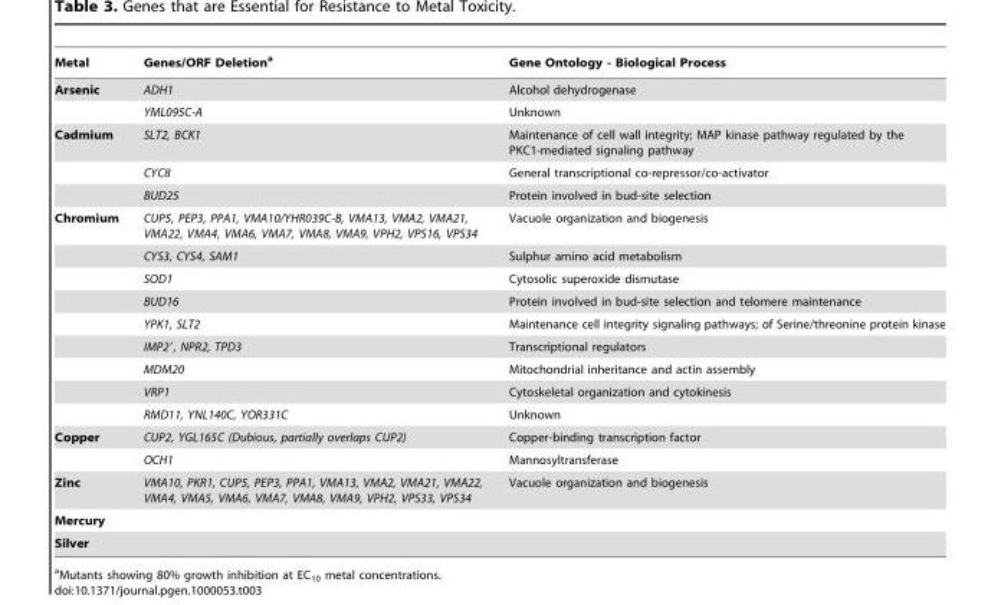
<table><thead><tr><td>Metal</td><td>Genes/ORF Deletion<sup>a</sup></td><td>Gene Ontology - Biological Process</td></tr></thead><tbody><tr><td rowspan="2">Arsenic</td><td>ADH1</td><td>Alcohol dehydrogenase</td></tr><tr><td>YML095C-A</td><td>Unknown</td></tr><tr><td rowspan="3">Cadmium</td><td>SLT2, BCK1</td><td>Maintenance of cell wall integrity; MAP kinase pathway regulated by the PKC1-mediated signaling pathway</td></tr><tr><td>CYC8</td><td>General transcriptional co-repressor/co-activator</td></tr><tr><td>BUD25</td><td>Protein involved in bud-site selection</td></tr><tr><td rowspan="9">Chromium</td><td>CUP5, PEP3, PPA1, VMA10/YHR039C-B, VMA13, VMA2, VMA21, VMA22, VMA4, VMA6, VMA7, VMA8, VMA9, VPH2, VPS16, VPS34</td><td>Vacuole organization and biogenesis</td></tr><tr><td>CYS3, CYS4, SAM1</td><td>Sulphur amino acid metabolism</td></tr><tr><td>SOD1</td><td>Cytosolic superoxide dismutase</td></tr><tr><td>BUD16</td><td>Protein involved in bud-site selection and telomere maintenance</td></tr><tr><td>YPK1, SLT2</td><td>Maintenance cell integrity signaling pathways; of Serine/threonine protein kinase</td></tr><tr><td>IMP2′, NPR2, TPD3</td><td>Transcriptional regulators</td></tr><tr><td>MDM20</td><td>Mitochondrial inheritance and actin assembly</td></tr><tr><td>VRP1</td><td>Cytoskeletal organization and cytokinesis</td></tr><tr><td>RMD11, YNL140C, YOR331C</td><td>Unknown</td></tr><tr><td rowspan="2">Copper</td><td>CUP2, YGL165C (Dubious, partially overlaps CUP2)</td><td>Copper-binding transcription factor</td></tr><tr><td>OCH1</td><td>Mannosyltransferase</td></tr><tr><td>Zinc</td><td>VMA10, PKR1, CUP5, PEP3, PPA1, VMA13, VMA2, VMA21, VMA22, VMA4, VMA5, VMA6, VMA7, VMA8, VMA9, VPH2, VPS33, VPS34</td><td>Vacuole organization and biogenesis</td></tr><tr><td colspan="3">Mercury</td></tr><tr><td>Silver</td><td></td><td></td></tr></tbody></table>